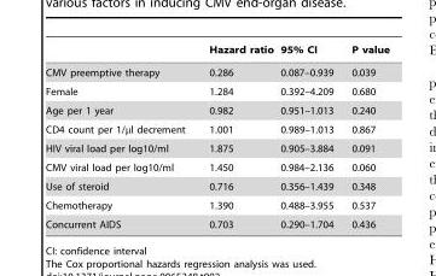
<table><thead><tr><td></td><td>Hazard ratio</td><td>95% CI</td><td>P value</td></tr></thead><tbody><tr><td>CMV preemptive therapy</td><td>0.286</td><td>0.087–0.939</td><td>0.039</td></tr><tr><td>Female</td><td>1.284</td><td>0.392–4.209</td><td>0.680</td></tr><tr><td>Age per 1 year</td><td>0.982</td><td>0.951–1.013</td><td>0.240</td></tr><tr><td>CD4 count per 1/μl decrement</td><td>1.001</td><td>0.989–1.013</td><td>0.867</td></tr><tr><td>HIV viral load per log10/ml</td><td>1.875</td><td>0.905–3.884</td><td>0.091</td></tr><tr><td>CMV viral load per log10/ml</td><td>1.450</td><td>0.984–2.136</td><td>0.060</td></tr><tr><td>Use of steroid</td><td>0.716</td><td>0.356–1.439</td><td>0.348</td></tr><tr><td>Chemotherapy</td><td>1.390</td><td>0.488–3.955</td><td>0.537</td></tr><tr><td>Concurrent AIDS</td><td>0.703</td><td>0.290–1.704</td><td>0.436</td></tr></tbody></table>